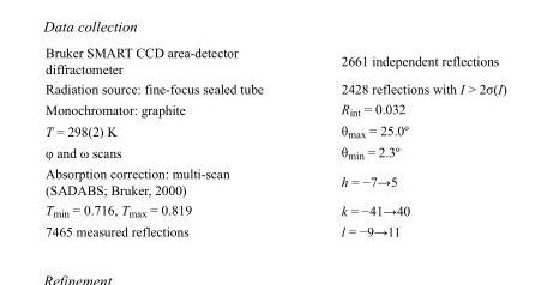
<table><tbody><tr><td>Bruker SMART CCD area-detector diffractometer</td><td>2661 independent reflections</td></tr><tr><td>Radiation source: fine-focus sealed tube</td><td>2428 reflections with I &gt; 2σ(I)</td></tr><tr><td>Monochromator: graphite</td><td>R<sub>int</sub> = 0.032</td></tr><tr><td>T = 298(2) K</td><td>θ<sub>max</sub> = 25.0º</td></tr><tr><td>φ and ω scans</td><td>θ<sub>min</sub> = 2.3º</td></tr><tr><td>Absorption correction: multi-scan (SADABS; Bruker, 2000)</td><td>h = −7→5</td></tr><tr><td>T<sub>min</sub> = 0.716, T<sub>max</sub> = 0.819</td><td>k = −41→40</td></tr><tr><td>7465 measured reflections</td><td>l = −9→11</td></tr></tbody></table>